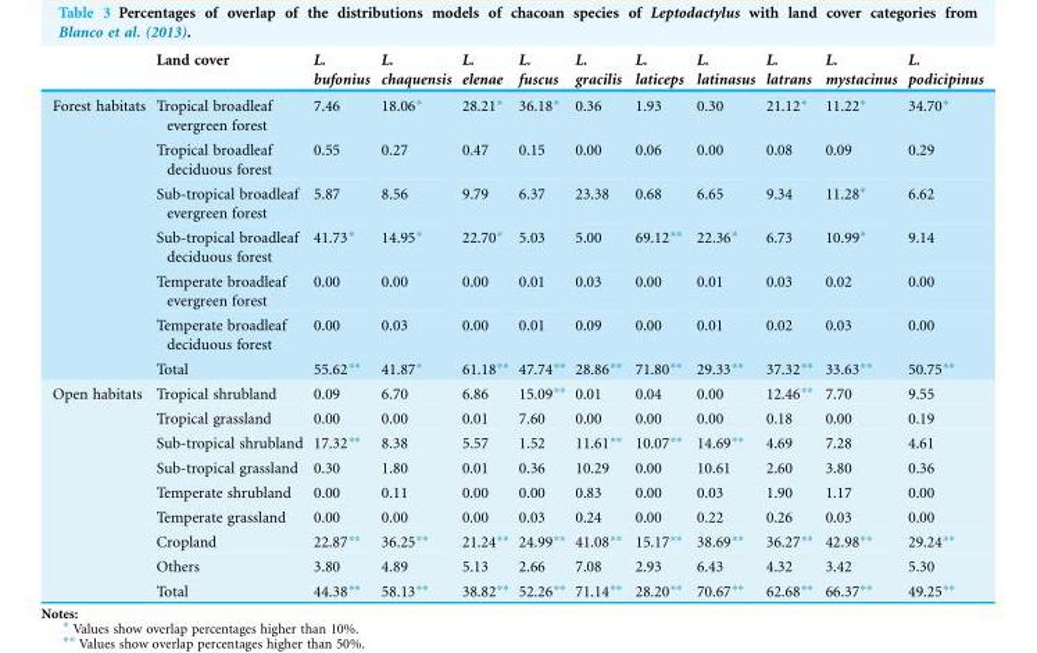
<table><thead><tr><td></td><td>Land cover</td><td>L. bufonius</td><td>L. chaquensis</td><td>L. elenae</td><td>L. fuscus</td><td>L. gracilis</td><td>L. laticeps</td><td>L. latinasus</td><td>L. latrans</td><td>L. mystacinus</td><td>L. podicipinus</td></tr></thead><tbody><tr><td rowspan="7">Forest habitats</td><td>Tropical broadleaf evergreen forest</td><td>7.46</td><td>18.06*</td><td>28.21*</td><td>36.18*</td><td>0.36</td><td>1.93</td><td>0.30</td><td>21.12*</td><td>11.22*</td><td>34.70*</td></tr><tr><td>Tropical broadleaf deciduous forest</td><td>0.55</td><td>0.27</td><td>0.47</td><td>0.15</td><td>0.00</td><td>0.06</td><td>0.00</td><td>0.08</td><td>0.09</td><td>0.29</td></tr><tr><td>Sub-tropical broadleaf evergreen forest</td><td>5.87</td><td>8.56</td><td>9.79</td><td>6.37</td><td>23.38</td><td>0.68</td><td>6.65</td><td>9.34</td><td>11.28*</td><td>6.62</td></tr><tr><td>Sub-tropical broadleaf deciduous forest</td><td>41.73*</td><td>14.95*</td><td>22.70*</td><td>5.03</td><td>5.00</td><td>69.12**</td><td>22.36*</td><td>6.73</td><td>10.99*</td><td>9.14</td></tr><tr><td>Temperate broadleaf evergreen forest</td><td>0.00</td><td>0.00</td><td>0.00</td><td>0.01</td><td>0.03</td><td>0.00</td><td>0.01</td><td>0.03</td><td>0.02</td><td>0.00</td></tr><tr><td>Temperate broadleaf deciduous forest</td><td>0.00</td><td>0.03</td><td>0.00</td><td>0.01</td><td>0.09</td><td>0.00</td><td>0.01</td><td>0.02</td><td>0.03</td><td>0.00</td></tr><tr><td>Total</td><td>55.62**</td><td>41.87*</td><td>61.18**</td><td>47.74**</td><td>28.86**</td><td>71.80**</td><td>29.33**</td><td>37.32**</td><td>33.63**</td><td>50.75**</td></tr><tr><td rowspan="9">Open habitats</td><td>Tropical shrubland</td><td>0.09</td><td>6.70</td><td>6.86</td><td>15.09**</td><td>0.01</td><td>0.04</td><td>0.00</td><td>12.46**</td><td>7.70</td><td>9.55</td></tr><tr><td>Tropical grassland</td><td>0.00</td><td>0.00</td><td>0.01</td><td>7.60</td><td>0.00</td><td>0.00</td><td>0.00</td><td>0.18</td><td>0.00</td><td>0.19</td></tr><tr><td>Sub-tropical shrubland</td><td>17.32**</td><td>8.38</td><td>5.57</td><td>1.52</td><td>11.61**</td><td>10.07**</td><td>14.69**</td><td>4.69</td><td>7.28</td><td>4.61</td></tr><tr><td>Sub-tropical grassland</td><td>0.30</td><td>1.80</td><td>0.01</td><td>0.36</td><td>10.29</td><td>0.00</td><td>10.61</td><td>2.60</td><td>3.80</td><td>0.36</td></tr><tr><td>Temperate shrubland</td><td>0.00</td><td>0.11</td><td>0.00</td><td>0.00</td><td>0.83</td><td>0.00</td><td>0.03</td><td>1.90</td><td>1.17</td><td>0.00</td></tr><tr><td>Temperate grassland</td><td>0.00</td><td>0.00</td><td>0.00</td><td>0.03</td><td>0.24</td><td>0.00</td><td>0.22</td><td>0.26</td><td>0.03</td><td>0.00</td></tr><tr><td>Cropland</td><td>22.87**</td><td>36.25**</td><td>21.24**</td><td>24.99**</td><td>41.08**</td><td>15.17**</td><td>38.69**</td><td>36.27**</td><td>42.98**</td><td>29.24**</td></tr><tr><td>Others</td><td>3.80</td><td>4.89</td><td>5.13</td><td>2.66</td><td>7.08</td><td>2.93</td><td>6.43</td><td>4.32</td><td>3.42</td><td>5.30</td></tr><tr><td>Total</td><td>44.38**</td><td>58.13**</td><td>38.82**</td><td>52.26**</td><td>71.14**</td><td>28.20**</td><td>70.67**</td><td>62.68**</td><td>66.37**</td><td>49.25**</td></tr></tbody></table>